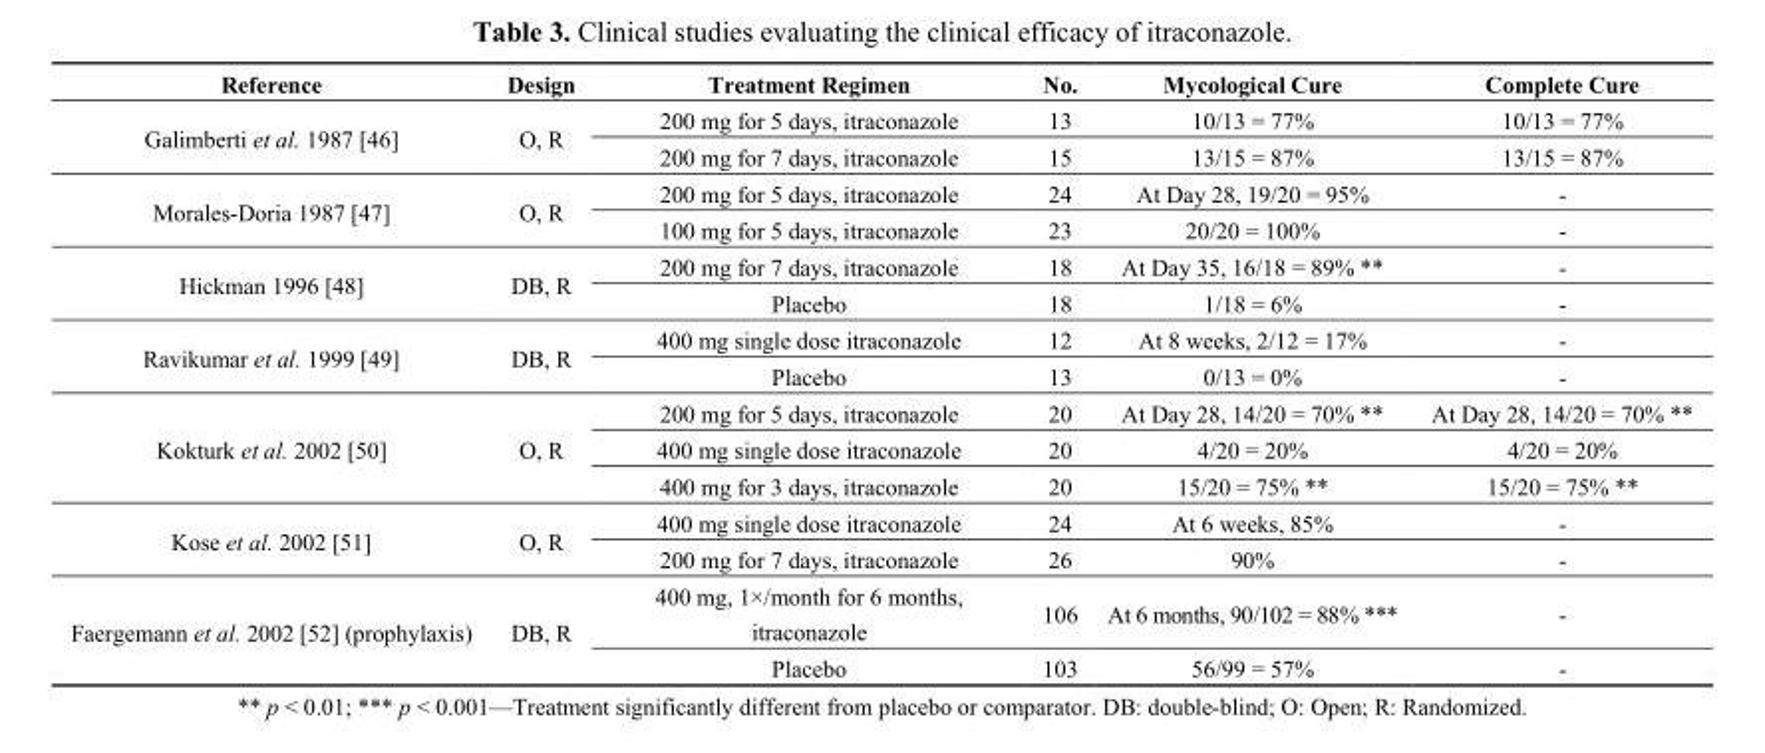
<table><thead><tr><td>Reference</td><td>Design</td><td>Treatment Regimen</td><td>No.</td><td>Mycological Cure</td><td>Complete Cure</td></tr></thead><tbody><tr><td rowspan="2">Galimberti et al. 1987 [46]</td><td rowspan="2">O, R</td><td>200 mg for 5 days, itraconazole</td><td>13</td><td>10/13 = 77%</td><td>10/13 = 77%</td></tr><tr><td>200 mg for 7 days, itraconazole</td><td>15</td><td>13/15 = 87%</td><td>13/15 = 87%</td></tr><tr><td rowspan="2">Morales-Doria 1987 [47]</td><td rowspan="2">O, R</td><td>200 mg for 5 days, itraconazole</td><td>24</td><td>At Day 28, 19/20 = 95%</td><td>-</td></tr><tr><td>100 mg for 5 days, itraconazole</td><td>23</td><td>20/20 = 100%</td><td>-</td></tr><tr><td rowspan="2">Hickman 1996 [48]</td><td rowspan="2">DB, R</td><td>200 mg for 7 days, itraconazole</td><td>18</td><td>At Day 35, 16/18 = 89% **</td><td>-</td></tr><tr><td>Placebo</td><td>18</td><td>1/18 = 6%</td><td>-</td></tr><tr><td rowspan="2">Ravikumar et al. 1999 [49]</td><td rowspan="2">DB, R</td><td>400 mg single dose itraconazole</td><td>12</td><td>At 8 weeks, 2/12 = 17%</td><td>-</td></tr><tr><td>Placebo</td><td>13</td><td>0/13 = 0%</td><td>-</td></tr><tr><td rowspan="3">Kokturk et al. 2002 [50]</td><td rowspan="3">O, R</td><td>200 mg for 5 days, itraconazole</td><td>20</td><td>At Day 28, 14/20 = 70% **</td><td>At Day 28, 14/20 = 70% **</td></tr><tr><td>400 mg single dose itraconazole</td><td>20</td><td>4/20 = 20%</td><td>4/20 = 20%</td></tr><tr><td>400 mg for 3 days, itraconazole</td><td>20</td><td>15/20 = 75% **</td><td>15/20 = 75% **</td></tr><tr><td rowspan="2">Kose et al. 2002 [51]</td><td rowspan="2">O, R</td><td>400 mg single dose itraconazole</td><td>24</td><td>At 6 weeks, 85%</td><td>-</td></tr><tr><td>200 mg for 7 days, itraconazole</td><td>26</td><td>90%</td><td>-</td></tr><tr><td rowspan="2">Faergemann et al. 2002 [52] (prophylaxis)</td><td rowspan="2">DB, R</td><td>400 mg, 1×/month for 6 months, itraconazole</td><td>106</td><td>At 6 months, 90/102 = 88% ***</td><td>-</td></tr><tr><td>Placebo</td><td>103</td><td>56/99 = 57%</td><td>-</td></tr></tbody></table>